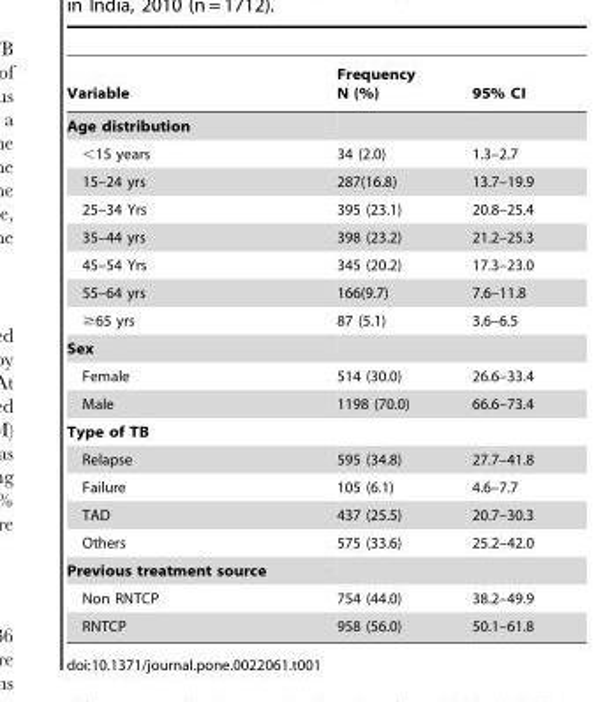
<table><thead><tr><td>Variable</td><td>Frequency N (%)</td><td>95% CI</td></tr></thead><tbody><tr><td colspan="3">Age distribution</td></tr><tr><td>&lt;15 years</td><td>34 (2.0)</td><td>1.3–2.7</td></tr><tr><td>15–24 yrs</td><td>287(16.8)</td><td>13.7–19.9</td></tr><tr><td>25–34 Yrs</td><td>395 (23.1)</td><td>20.8–25.4</td></tr><tr><td>35–44 yrs</td><td>398 (23.2)</td><td>21.2–25.3</td></tr><tr><td>45–54 Yrs</td><td>345 (20.2)</td><td>17.3–23.0</td></tr><tr><td>55–64 yrs</td><td>166(9.7)</td><td>7.6–11.8</td></tr><tr><td>≥65 yrs</td><td>87 (5.1)</td><td>3.6–6.5</td></tr><tr><td colspan="3">Sex</td></tr><tr><td>Female</td><td>514 (30.0)</td><td>26.6–33.4</td></tr><tr><td>Male</td><td>1198 (70.0)</td><td>66.6–73.4</td></tr><tr><td colspan="3">Type of TB</td></tr><tr><td>Relapse</td><td>595 (34.8)</td><td>27.7–41.8</td></tr><tr><td>Failure</td><td>105 (6.1)</td><td>4.6–7.7</td></tr><tr><td>TAD</td><td>437 (25.5)</td><td>20.7–30.3</td></tr><tr><td>Others</td><td>575 (33.6)</td><td>25.2–42.0</td></tr><tr><td colspan="3">Previous treatment source</td></tr><tr><td>Non RNTCP</td><td>754 (44.0)</td><td>38.2–49.9</td></tr><tr><td>RNTCP</td><td>958 (56.0)</td><td>50.1–61.8</td></tr></tbody></table>